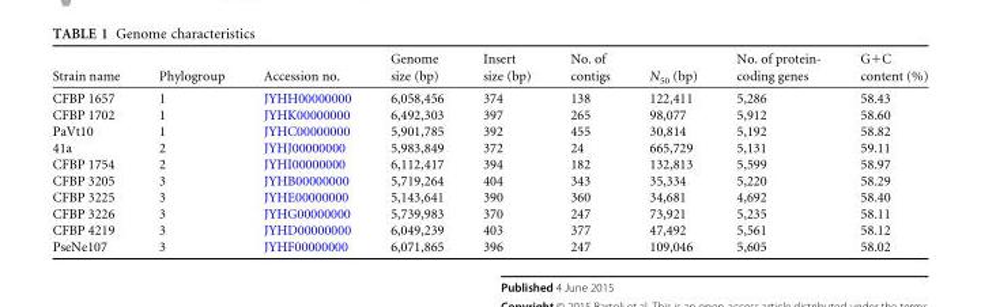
<table><thead><tr><td>Strain name</td><td>Phylogroup</td><td>Accession no.</td><td>Genome size (bp)</td><td>Insert size (bp)</td><td>No. of contigs</td><td>N<sub>50</sub> (bp)</td><td>No. of protein- coding genes</td><td>G+C content (%)</td></tr></thead><tbody><tr><td>CFBP 1657</td><td>1</td><td>JYHH00000000</td><td>6,058,456</td><td>374</td><td>138</td><td>122,411</td><td>5,286</td><td>58.43</td></tr><tr><td>CFBP 1702</td><td>1</td><td>JYHK00000000</td><td>6,492,303</td><td>397</td><td>265</td><td>98,077</td><td>5,912</td><td>58.60</td></tr><tr><td>PaVt10</td><td>1</td><td>JYHC00000000</td><td>5,901,785</td><td>392</td><td>455</td><td>30,814</td><td>5,192</td><td>58.82</td></tr><tr><td>41a</td><td>2</td><td>JYHJ00000000</td><td>5,983,849</td><td>372</td><td>24</td><td>665,729</td><td>5,131</td><td>59.11</td></tr><tr><td>CFBP 1754</td><td>2</td><td>JYHI00000000</td><td>6,112,417</td><td>394</td><td>182</td><td>132,813</td><td>5,599</td><td>58.97</td></tr><tr><td>CFBP 3205</td><td>3</td><td>JYHB00000000</td><td>5,719,264</td><td>404</td><td>343</td><td>35,334</td><td>5,220</td><td>58.29</td></tr><tr><td>CFBP 3225</td><td>3</td><td>JYHE00000000</td><td>5,143,641</td><td>390</td><td>360</td><td>34,681</td><td>4,692</td><td>58.40</td></tr><tr><td>CFBP 3226</td><td>3</td><td>JYHG00000000</td><td>5,739,983</td><td>370</td><td>247</td><td>73,921</td><td>5,235</td><td>58.11</td></tr><tr><td>CFBP 4219</td><td>3</td><td>JYHD00000000</td><td>6,049,239</td><td>403</td><td>377</td><td>47,492</td><td>5,561</td><td>58.12</td></tr><tr><td>PseNe107</td><td>3</td><td>JYHF00000000</td><td>6,071,865</td><td>396</td><td>247</td><td>109,046</td><td>5,605</td><td>58.02</td></tr></tbody></table>